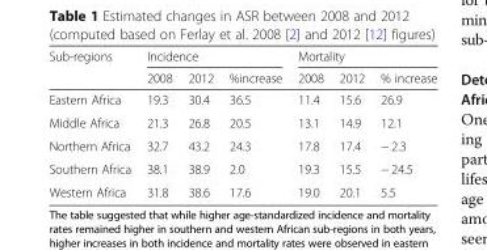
<table><thead><tr><td rowspan="2">Sub-regions</td><td colspan="3">Incidence</td><td colspan="3">Mortality</td></tr><tr><td>2008</td><td>2012</td><td>%increase</td><td>2008</td><td>2012</td><td>% increase</td></tr></thead><tbody><tr><td>Eastern Africa</td><td>19.3</td><td>30.4</td><td>36.5</td><td>11.4</td><td>15.6</td><td>26.9</td></tr><tr><td>Middle Africa</td><td>21.3</td><td>26.8</td><td>20.5</td><td>13.1</td><td>14.9</td><td>12.1</td></tr><tr><td>Northern Africa</td><td>32.7</td><td>43.2</td><td>24.3</td><td>17.8</td><td>17.4</td><td>− 2.3</td></tr><tr><td>Southern Africa</td><td>38.1</td><td>38.9</td><td>2.0</td><td>19.3</td><td>15.5</td><td>− 24.5</td></tr><tr><td>Western Africa</td><td>31.8</td><td>38.6</td><td>17.6</td><td>19.0</td><td>20.1</td><td>5.5</td></tr></tbody></table>